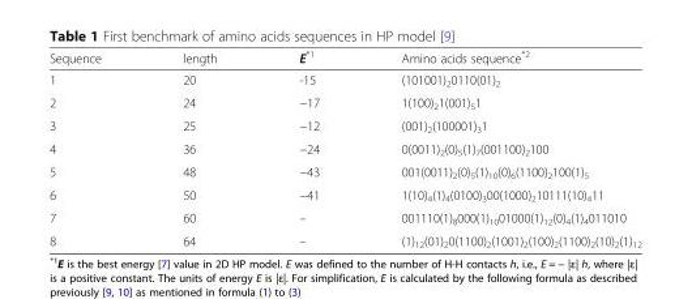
<table><thead><tr><td>Sequence</td><td>length</td><td>E<sup>*1</sup></td><td>Amino acids sequence<sup>*2</sup></td></tr></thead><tbody><tr><td>1</td><td>20</td><td>-15</td><td>(101001)<sub>2</sub>0110(01)<sub>2</sub></td></tr><tr><td>2</td><td>24</td><td>−17</td><td>1(100)<sub>2</sub>1(001)<sub>5</sub>1</td></tr><tr><td>3</td><td>25</td><td>−12</td><td>(001)<sub>2</sub>(100001)<sub>3</sub>1</td></tr><tr><td>4</td><td>36</td><td>−24</td><td>0(0011)<sub>2</sub>(0)<sub>5</sub>(1)<sub>7</sub>(001100)<sub>2</sub>100</td></tr><tr><td>5</td><td>48</td><td>−43</td><td>001(0011)<sub>2</sub>(0)<sub>5</sub>(1)<sub>10</sub>(0)<sub>6</sub>(1100)<sub>2</sub>100(1)<sub>5</sub></td></tr><tr><td>6</td><td>50</td><td>−41</td><td>1(10)<sub>4</sub>(1)<sub>4</sub>(0100)<sub>3</sub>00(1000)<sub>2</sub>10111(10)<sub>4</sub>11</td></tr><tr><td>7</td><td>60</td><td>–</td><td>001110(1)<sub>8</sub>000(1)<sub>10</sub>01000(1)<sub>12</sub>(0)<sub>4</sub>(1)<sub>4</sub>011010</td></tr><tr><td>8</td><td>64</td><td>–</td><td>(1)<sub>12</sub>(01)<sub>2</sub>0(1100)<sub>2</sub>(1001)<sub>2</sub>(100)<sub>2</sub>(1100)<sub>2</sub>(10)<sub>2</sub>(1)<sub>12</sub></td></tr></tbody></table>